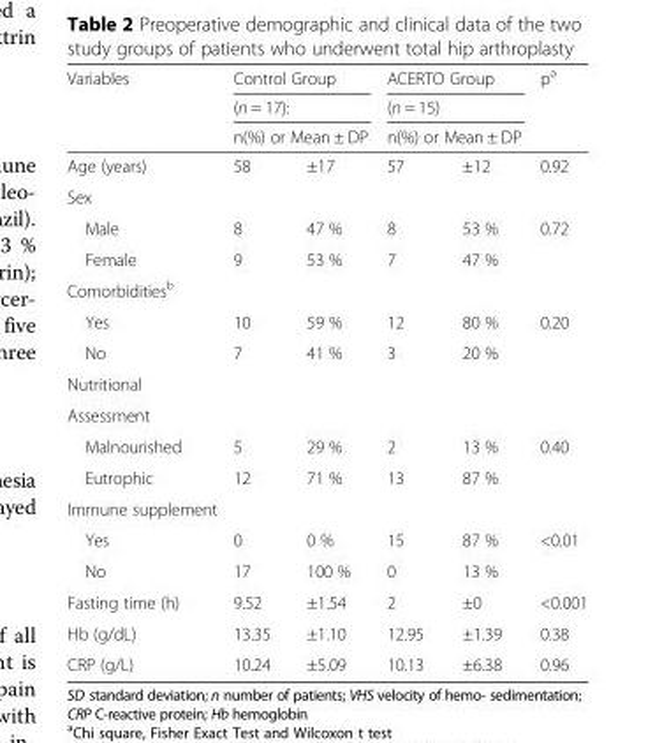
<table><thead><tr><td rowspan="4">Variables Age (years)</td><td rowspan="3" colspan="2">Control Group (n = 17): n(%) or Mean ± DP</td><td rowspan="3" colspan="2">ACERTO Group (n = 15) n(%) or Mean ± DP</td><td rowspan="4">p<sup>a</sup> 0.92</td></tr><tr></tr><tr></tr><tr><td>58</td><td>±17</td><td>57</td><td>±12</td></tr></thead><tbody><tr><td colspan="6">Sex</td></tr><tr><td>Male</td><td>8</td><td>47 %</td><td>8</td><td>53 %</td><td>0.72</td></tr><tr><td>Female</td><td>9</td><td>53 %</td><td>7</td><td>47 %</td><td></td></tr><tr><td colspan="6">Comorbidities<sup>b</sup></td></tr><tr><td>Yes</td><td>10</td><td>59 %</td><td>12</td><td>80 %</td><td>0.20</td></tr><tr><td>No</td><td>7</td><td>41 %</td><td>3</td><td>20 %</td><td></td></tr><tr><td colspan="6">Nutritional</td></tr><tr><td colspan="6">Assessment</td></tr><tr><td>Malnourished</td><td>5</td><td>29 %</td><td>2</td><td>13 %</td><td>0.40</td></tr><tr><td>Eutrophic</td><td>12</td><td>71 %</td><td>13</td><td>87 %</td><td></td></tr><tr><td colspan="6">Immune supplement</td></tr><tr><td>Yes</td><td>0</td><td>0 %</td><td>15</td><td>87 %</td><td>&lt;0.01</td></tr><tr><td>No</td><td>17</td><td>100 %</td><td>0</td><td>13 %</td><td></td></tr><tr><td>Fasting time (h)</td><td>9.52</td><td>±1.54</td><td>2</td><td>±0</td><td>&lt;0.001</td></tr><tr><td>Hb (g/dL)</td><td>13.35</td><td>±1.10</td><td>12.95</td><td>±1.39</td><td>0.38</td></tr><tr><td>CRP (g/L)</td><td>10.24</td><td>±5.09</td><td>10.13</td><td>±6.38</td><td>0.96</td></tr></tbody></table>